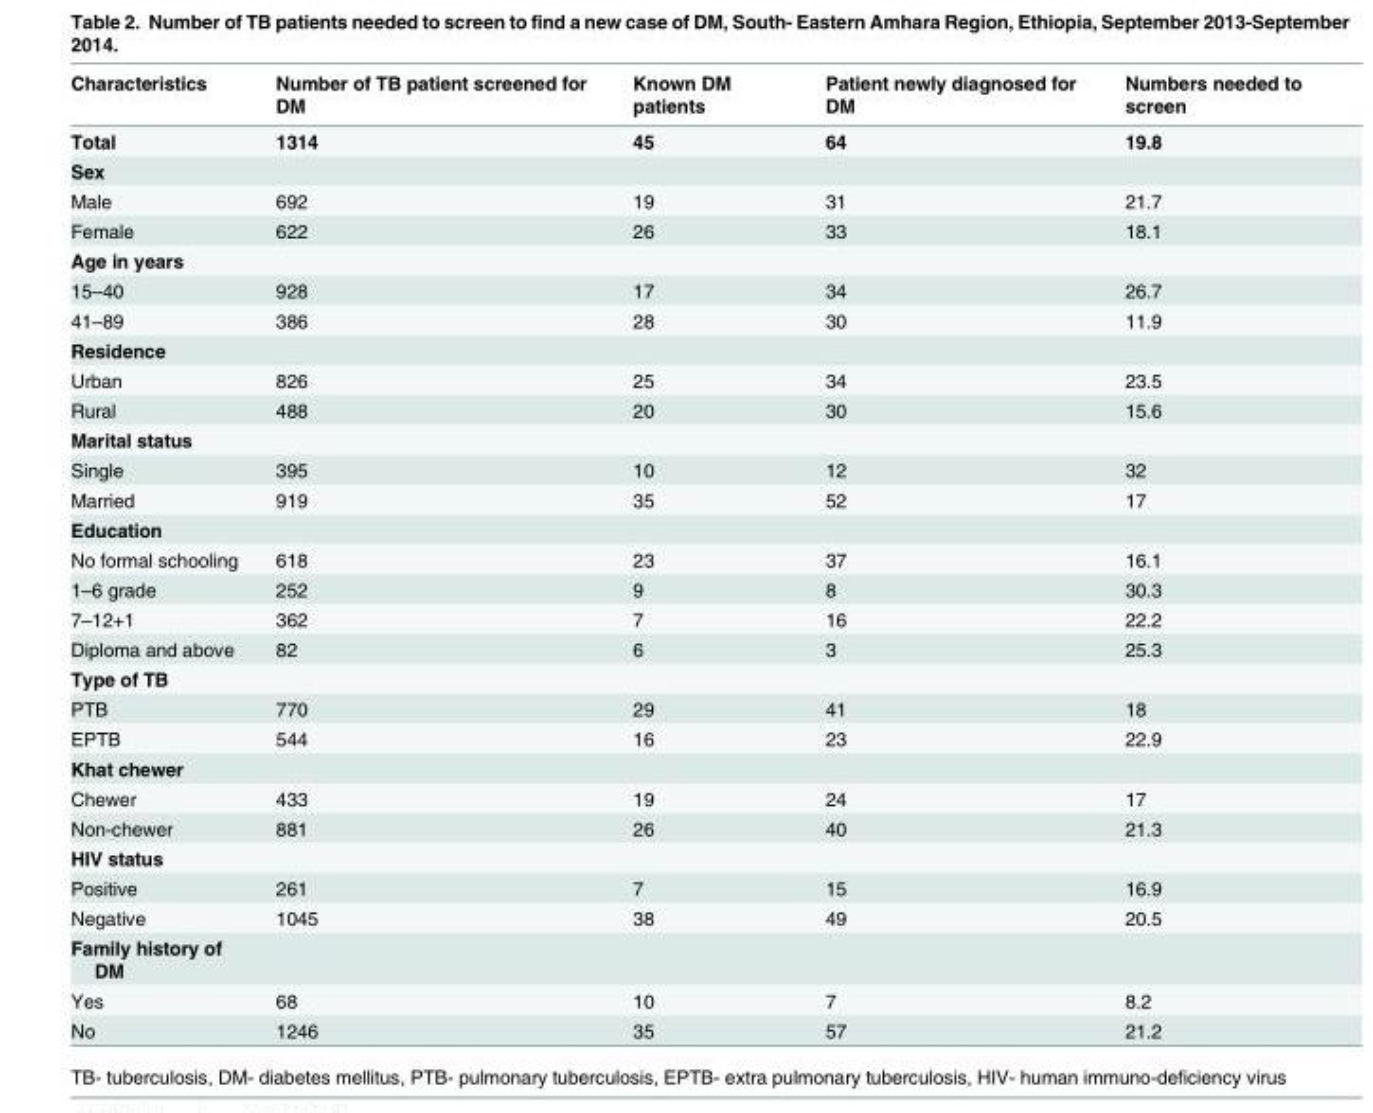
<table><thead><tr><td>Characteristics</td><td>Number of TB patient screened for DM</td><td>Known DM patients</td><td>Patient newly diagnosed for DM</td><td>Numbers needed to screen</td></tr></thead><tbody><tr><td>Total</td><td>1314</td><td>45</td><td>64</td><td>19.8</td></tr><tr><td colspan="5">Sex</td></tr><tr><td>Male</td><td>692</td><td>19</td><td>31</td><td>21.7</td></tr><tr><td>Female</td><td>622</td><td>26</td><td>33</td><td>18.1</td></tr><tr><td colspan="5">Age in years</td></tr><tr><td>15–40</td><td>928</td><td>17</td><td>34</td><td>26.7</td></tr><tr><td>41–89</td><td>386</td><td>28</td><td>30</td><td>11.9</td></tr><tr><td colspan="5">Residence</td></tr><tr><td>Urban</td><td>826</td><td>25</td><td>34</td><td>23.5</td></tr><tr><td>Rural</td><td>488</td><td>20</td><td>30</td><td>15.6</td></tr><tr><td colspan="5">Marital status</td></tr><tr><td>Single</td><td>395</td><td>10</td><td>12</td><td>32</td></tr><tr><td>Married</td><td>919</td><td>35</td><td>52</td><td>17</td></tr><tr><td colspan="5">Education</td></tr><tr><td>No formal schooling</td><td>618</td><td>23</td><td>37</td><td>16.1</td></tr><tr><td>1–6 grade</td><td>252</td><td>9</td><td>8</td><td>30.3</td></tr><tr><td>7–12+1</td><td>362</td><td>7</td><td>16</td><td>22.2</td></tr><tr><td>Diploma and above</td><td>82</td><td>6</td><td>3</td><td>25.3</td></tr><tr><td colspan="5">Type of TB</td></tr><tr><td>PTB</td><td>770</td><td>29</td><td>41</td><td>18</td></tr><tr><td>EPTB</td><td>544</td><td>16</td><td>23</td><td>22.9</td></tr><tr><td colspan="5">Khat chewer</td></tr><tr><td>Chewer</td><td>433</td><td>19</td><td>24</td><td>17</td></tr><tr><td>Non-chewer</td><td>881</td><td>26</td><td>40</td><td>21.3</td></tr><tr><td colspan="5">HIV status</td></tr><tr><td>Positive</td><td>261</td><td>7</td><td>15</td><td>16.9</td></tr><tr><td>Negative</td><td>1045</td><td>38</td><td>49</td><td>20.5</td></tr><tr><td colspan="5">Family history of DM</td></tr><tr><td>Yes</td><td>68</td><td>10</td><td>7</td><td>8.2</td></tr><tr><td>No</td><td>1246</td><td>35</td><td>57</td><td>21.2</td></tr></tbody></table>